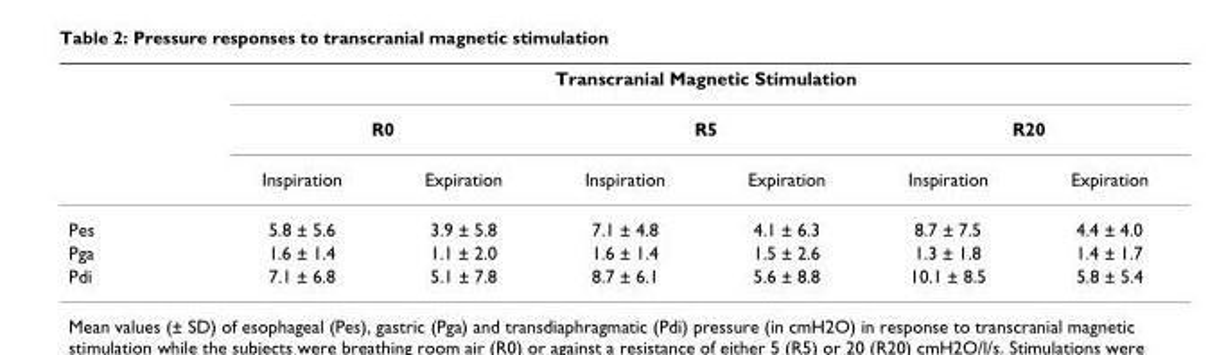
<table><thead><tr><td rowspan="3"></td><td colspan="6">Transcranial Magnetic Stimulation</td></tr><tr><td colspan="2">R0</td><td colspan="2">R5</td><td colspan="2">R20</td></tr><tr><td>Inspiration</td><td>Expiration</td><td>Inspiration</td><td>Expiration</td><td>Inspiration</td><td>Expiration</td></tr></thead><tbody><tr><td>Pes</td><td>5.8 ± 5.6</td><td>3.9 ± 5.8</td><td>7.1 ± 4.8</td><td>4.1 ± 6.3</td><td>8.7 ± 7.5</td><td>4.4 ± 4.0</td></tr><tr><td>Pga</td><td>1.6 ± 1.4</td><td>1.1 ± 2.0</td><td>1.6 ± 1.4</td><td>1.5 ± 2.6</td><td>1.3 ± 1.8</td><td>1.4 ± 1.7</td></tr><tr><td>Pdi</td><td>7.1 ± 6.8</td><td>5.1 ± 7.8</td><td>8.7 ± 6.1</td><td>5.6 ± 8.8</td><td>10.1 ± 8.5</td><td>5.8 ± 5.4</td></tr></tbody></table>